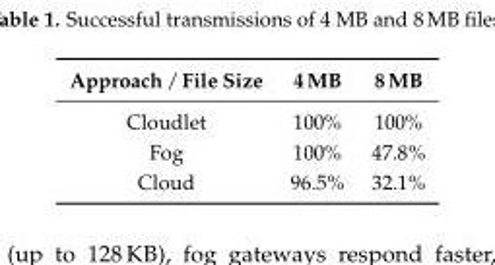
<table><thead><tr><td>Approach / File Size</td><td>4 MB</td><td>8 MB</td></tr></thead><tbody><tr><td>Cloudlet</td><td>100%</td><td>100%</td></tr><tr><td>Fog</td><td>100%</td><td>47.8%</td></tr><tr><td>Cloud</td><td>96.5%</td><td>32.1%</td></tr></tbody></table>